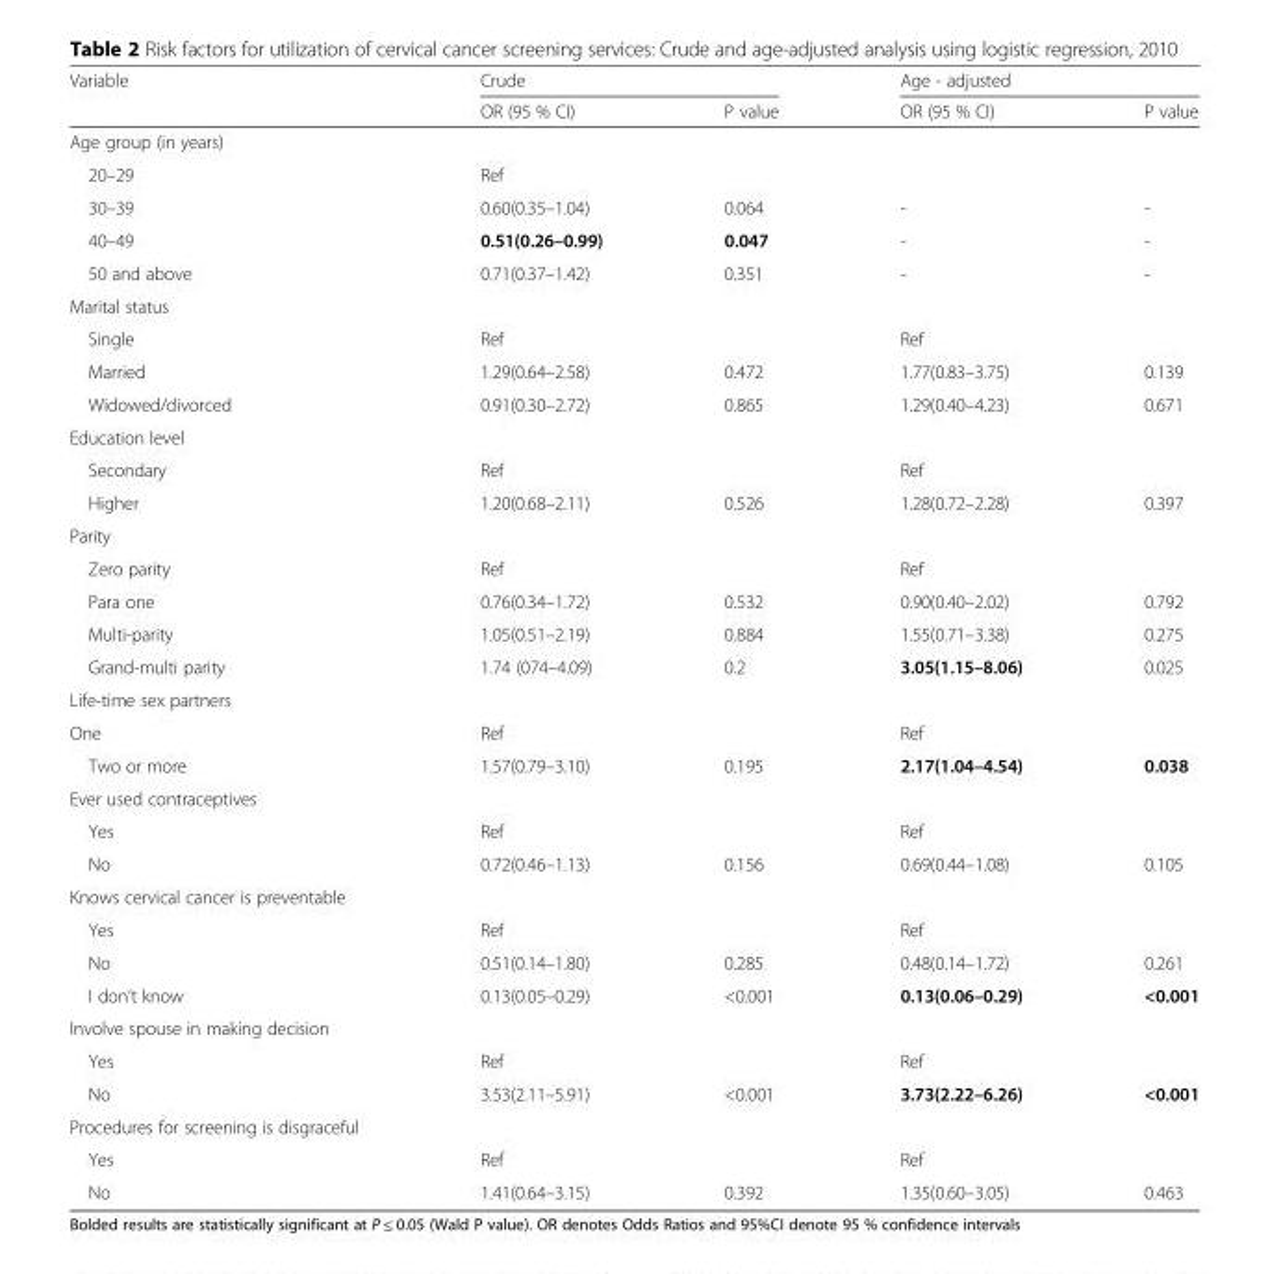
<table><thead><tr><td rowspan="2">Variable</td><td colspan="2">Crude</td><td colspan="2">Age - adjusted</td></tr><tr><td>OR (95 % CI)</td><td>P value</td><td>OR (95 % CI)</td><td>P value</td></tr></thead><tbody><tr><td colspan="5">Age group (in years)</td></tr><tr><td>20–29</td><td>Ref</td><td></td><td></td><td></td></tr><tr><td>30–39</td><td>0.60(0.35–1.04)</td><td>0.064</td><td>-</td><td>-</td></tr><tr><td>40–49</td><td>0.51(0.26–0.99)</td><td>0.047</td><td>-</td><td>-</td></tr><tr><td>50 and above</td><td>0.71(0.37–1.42)</td><td>0.351</td><td>-</td><td>-</td></tr><tr><td colspan="5">Marital status</td></tr><tr><td>Single</td><td>Ref</td><td></td><td>Ref</td><td></td></tr><tr><td>Married</td><td>1.29(0.64–2.58)</td><td>0.472</td><td>1.77(0.83–3.75)</td><td>0.139</td></tr><tr><td>Widowed/divorced</td><td>0.91(0.30–2.72)</td><td>0.865</td><td>1.29(0.40–4.23)</td><td>0.671</td></tr><tr><td colspan="5">Education level</td></tr><tr><td>Secondary</td><td>Ref</td><td></td><td>Ref</td><td></td></tr><tr><td>Higher</td><td>1.20(0.68–2.11)</td><td>0.526</td><td>1.28(0.72–2.28)</td><td>0.397</td></tr><tr><td colspan="5">Parity</td></tr><tr><td>Zero parity</td><td>Ref</td><td></td><td>Ref</td><td></td></tr><tr><td>Para one</td><td>0.76(0.34–1.72)</td><td>0.532</td><td>0.90(0.40–2.02)</td><td>0.792</td></tr><tr><td>Multi-parity</td><td>1.05(0.51–2.19)</td><td>0.884</td><td>1.55(0.71–3.38)</td><td>0.275</td></tr><tr><td>Grand-multi parity</td><td>1.74 (074–4.09)</td><td>0.2</td><td>3.05(1.15–8.06)</td><td>0.025</td></tr><tr><td colspan="5">Life-time sex partners</td></tr><tr><td>One</td><td>Ref</td><td></td><td>Ref</td><td></td></tr><tr><td>Two or more</td><td>1.57(0.79–3.10)</td><td>0.195</td><td>2.17(1.04–4.54)</td><td>0.038</td></tr><tr><td colspan="5">Ever used contraceptives</td></tr><tr><td>Yes</td><td>Ref</td><td></td><td>Ref</td><td></td></tr><tr><td>No</td><td>0.72(0.46–1.13)</td><td>0.156</td><td>0.69(0.44–1.08)</td><td>0.105</td></tr><tr><td colspan="5">Knows cervical cancer is preventable</td></tr><tr><td>Yes</td><td>Ref</td><td></td><td>Ref</td><td></td></tr><tr><td>No</td><td>0.51(0.14–1.80)</td><td>0.285</td><td>0.48(0.14–1.72)</td><td>0.261</td></tr><tr><td>I don’t know</td><td>0.13(0.05–0.29)</td><td>&lt;0.001</td><td>0.13(0.06–0.29)</td><td>&lt;0.001</td></tr><tr><td colspan="5">Involve spouse in making decision</td></tr><tr><td>Yes</td><td>Ref</td><td></td><td>Ref</td><td></td></tr><tr><td>No</td><td>3.53(2.11–5.91)</td><td>&lt;0.001</td><td>3.73(2.22–6.26)</td><td>&lt;0.001</td></tr><tr><td colspan="5">Procedures for screening is disgraceful</td></tr><tr><td>Yes</td><td>Ref</td><td></td><td>Ref</td><td></td></tr><tr><td>No</td><td>1.41(0.64–3.15)</td><td>0.392</td><td>1.35(0.60–3.05)</td><td>0.463</td></tr></tbody></table>